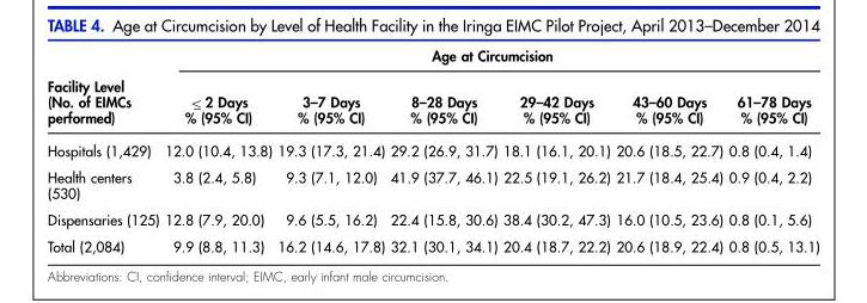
<table><thead><tr><td rowspan="2">Facility Level (No. of EIMCs performed)</td><td colspan="6">Age at Circumcision</td></tr><tr><td>o_ 2 Days % (95% CI)</td><td>3–7 Days % (95% CI)</td><td>8–28 Days % (95% CI)</td><td>29–42 Days % (95% CI)</td><td>43–60 Days % (95% CI)</td><td>61–78 Days % (95% CI)</td></tr></thead><tbody><tr><td>Hospitals (1,429)</td><td>12.0 (10.4, 13.8)</td><td>19.3 (17.3, 21.4)</td><td>29.2 (26.9, 31.7)</td><td>18.1 (16.1, 20.1)</td><td>20.6 (18.5, 22.7)</td><td>0.8 (0.4, 1.4)</td></tr><tr><td>Health centers (530)</td><td>3.8 (2.4, 5.8)</td><td>9.3 (7.1, 12.0)</td><td>41.9 (37.7, 46.1)</td><td>22.5 (19.1, 26.2)</td><td>21.7 (18.4, 25.4)</td><td>0.9 (0.4, 2.2)</td></tr><tr><td>Dispensaries (125)</td><td>12.8 (7.9, 20.0)</td><td>9.6 (5.5, 16.2)</td><td>22.4 (15.8, 30.6)</td><td>38.4 (30.2, 47.3)</td><td>16.0 (10.5, 23.6)</td><td>0.8 (0.1, 5.6)</td></tr><tr><td>Total (2,084)</td><td>9.9 (8.8, 11.3)</td><td>16.2 (14.6, 17.8)</td><td>32.1 (30.1, 34.1)</td><td>20.4 (18.7, 22.2)</td><td>20.6 (18.9, 22.4)</td><td>0.8 (0.5, 13.1)</td></tr></tbody></table>